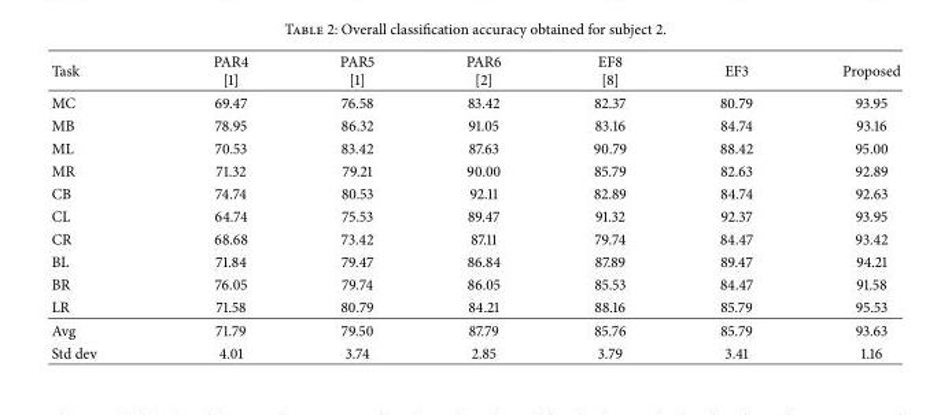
<table><thead><tr><td>Task</td><td>PAR4 [1]</td><td>PAR5 [1]</td><td>PAR6 [2]</td><td>EF8 [8]</td><td>EF3</td><td>Proposed</td></tr></thead><tbody><tr><td>MC</td><td>69.47</td><td>76.58</td><td>83.42</td><td>82.37</td><td>80.79</td><td>93.95</td></tr><tr><td>MB</td><td>78.95</td><td>86.32</td><td>91.05</td><td>83.16</td><td>84.74</td><td>93.16</td></tr><tr><td>ML</td><td>70.53</td><td>83.42</td><td>87.63</td><td>90.79</td><td>88.42</td><td>95.00</td></tr><tr><td>MR</td><td>71.32</td><td>79.21</td><td>90.00</td><td>85.79</td><td>82.63</td><td>92.89</td></tr><tr><td>CB</td><td>74.74</td><td>80.53</td><td>92.11</td><td>82.89</td><td>84.74</td><td>92.63</td></tr><tr><td>CL</td><td>64.74</td><td>75.53</td><td>89.47</td><td>91.32</td><td>92.37</td><td>93.95</td></tr><tr><td>CR</td><td>68.68</td><td>73.42</td><td>87.11</td><td>79.74</td><td>84.47</td><td>93.42</td></tr><tr><td>BL</td><td>71.84</td><td>79.47</td><td>86.84</td><td>87.89</td><td>89.47</td><td>94.21</td></tr><tr><td>BR</td><td>76.05</td><td>79.74</td><td>86.05</td><td>85.53</td><td>84.47</td><td>91.58</td></tr><tr><td>LR</td><td>71.58</td><td>80.79</td><td>84.21</td><td>88.16</td><td>85.79</td><td>95.53</td></tr><tr><td>Avg</td><td>71.79</td><td>79.50</td><td>87.79</td><td>85.76</td><td>85.79</td><td>93.63</td></tr><tr><td>Std dev</td><td>4.01</td><td>3.74</td><td>2.85</td><td>3.79</td><td>3.41</td><td>1.16</td></tr></tbody></table>